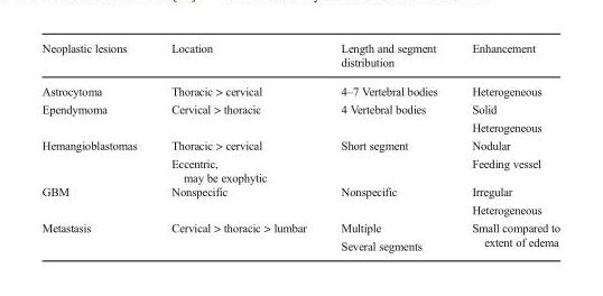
<table><thead><tr><td>Neoplastic lesions</td><td>Location</td><td>Length and segment distribution</td><td>Enhancement</td></tr></thead><tbody><tr><td>Astrocytoma</td><td>Thoracic &gt; cervical</td><td>4–7 Vertebral bodies</td><td>Heterogeneous</td></tr><tr><td>Ependymoma</td><td>Cervical &gt; thoracic</td><td>4 Vertebral bodies</td><td>Solid Heterogeneous</td></tr><tr><td>Hemangioblastomas</td><td>Thoracic &gt; cervical Eccentric, may be exophytic</td><td>Short segment</td><td>Nodular Feeding vessel</td></tr><tr><td>GBM</td><td>Nonspecific</td><td>Nonspecific</td><td>Irregular Heterogeneous</td></tr><tr><td>Metastasis</td><td>Cervical &gt; thoracic &gt; lumbar</td><td>Multiple Several segments</td><td>Small compared to extent of edema</td></tr></tbody></table>